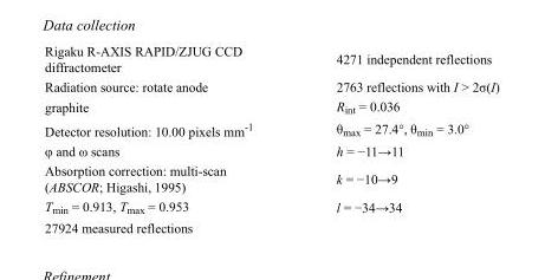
<table><tbody><tr><td>Rigaku R-AXIS RAPID/ZJUG CCD diffractometer</td><td>4271 independent reflections</td></tr><tr><td>Radiation source: rotate anode</td><td>2763 reflections with I &gt; 2σ(I)</td></tr><tr><td>graphite</td><td>R<sub>int</sub> = 0.036</td></tr><tr><td>Detector resolution: 10.00 pixels mm<sup>-1</sup></td><td>θ<sub>max</sub> = 27.4°, θ<sub>min</sub> = 3.0°</td></tr><tr><td>φ and ω scans</td><td>h = −11→11</td></tr><tr><td>Absorption correction: multi-scan (ABSCOR; Higashi, 1995)</td><td>k = −10→9</td></tr><tr><td>T<sub>min</sub> = 0.913, T<sub>max</sub> = 0.953</td><td>l = −34→34</td></tr><tr><td>27924 measured reflections</td><td></td></tr></tbody></table>